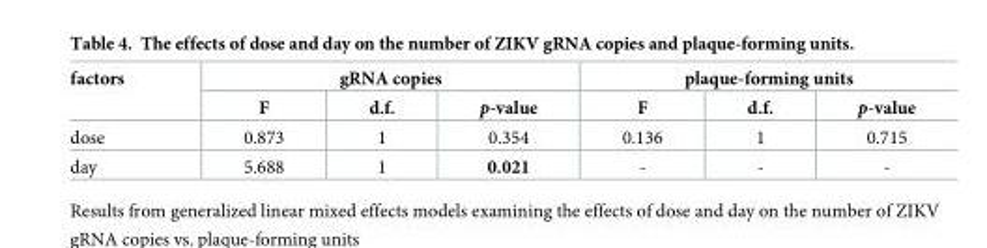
<table><thead><tr><td rowspan="2">factors</td><td colspan="3">gRNA copies</td><td colspan="3">plaque-forming units</td></tr><tr><td>F</td><td>d.f.</td><td>p-value</td><td>F</td><td>d.f.</td><td>p-value</td></tr></thead><tbody><tr><td>dose</td><td>0.873</td><td>1</td><td>0.354</td><td>0.136</td><td>1</td><td>0.715</td></tr><tr><td>day</td><td>5.688</td><td>1</td><td>0.021</td><td>-</td><td>-</td><td>-</td></tr></tbody></table>